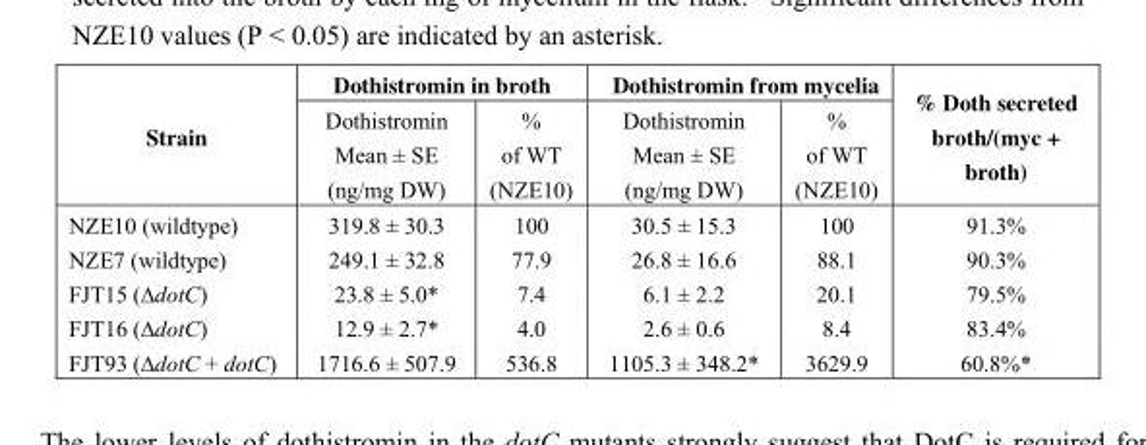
<table><thead><tr><td rowspan="2">Strain</td><td colspan="2">Dothistromin in broth</td><td colspan="2">Dothistromin from mycelia</td><td rowspan="2">% Doth secreted broth/(myc + broth)</td></tr><tr><td>Dothistromin Mean ± SE (ng/mg DW)</td><td>% of WT (NZE10)</td><td>Dothistromin Mean ± SE (ng/mg DW)</td><td>% of WT (NZE10)</td></tr></thead><tbody><tr><td>NZE10 (wildtype)</td><td>319.8 ± 30.3</td><td>100</td><td>30.5 ± 15.3</td><td>100</td><td>91.3%</td></tr><tr><td>NZE7 (wildtype)</td><td>249.1 ± 32.8</td><td>77.9</td><td>26.8 ± 16.6</td><td>88.1</td><td>90.3%</td></tr><tr><td>FJT15 (ΔdotC)</td><td>23.8 ± 5.0*</td><td>7.4</td><td>6.1 ± 2.2</td><td>20.1</td><td>79.5%</td></tr><tr><td>FJT16 (ΔdotC)</td><td>12.9 ± 2.7*</td><td>4.0</td><td>2.6 ± 0.6</td><td>8.4</td><td>83.4%</td></tr><tr><td>FJT93 (ΔdotC + dotC)</td><td>1716.6 ± 507.9</td><td>536.8</td><td>1105.3 ± 348.2*</td><td>3629.9</td><td>60.8%*</td></tr></tbody></table>